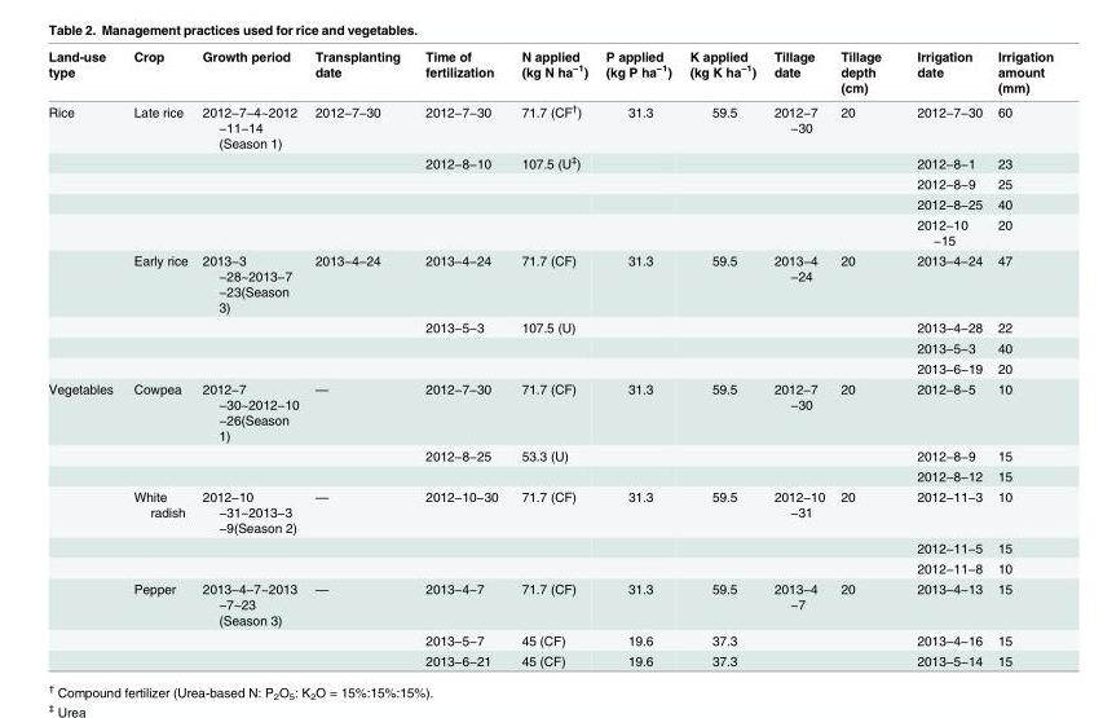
<table><thead><tr><td>Land-use type</td><td>Crop</td><td>Growth period</td><td>Transplanting date</td><td>Time of fertilization</td><td>N applied (kg N ha<sup>−1</sup>)</td><td>P applied (kg P ha<sup>−1</sup>)</td><td>K applied (kg K ha<sup>−1</sup>)</td><td>Tillage date</td><td>Tillage depth (cm)</td><td>Irrigation date</td><td>Irrigation amount (mm)</td></tr></thead><tbody><tr><td rowspan="9">Rice</td><td>Late rice</td><td>2012−7−4~2012 −11−14 (Season 1)</td><td>2012−7−30</td><td>2012−7−30</td><td>71.7 (CF<sup>†</sup>)</td><td>31.3</td><td>59.5</td><td>2012−7 −30</td><td>20</td><td>2012−7−30</td><td>60</td></tr><tr><td></td><td></td><td></td><td>2012−8−10</td><td>107.5 (U<sup>‡</sup>)</td><td></td><td></td><td></td><td></td><td>2012−8−1</td><td>23</td></tr><tr><td></td><td></td><td></td><td></td><td></td><td></td><td></td><td></td><td></td><td>2012−8−9</td><td>25</td></tr><tr><td></td><td></td><td></td><td></td><td></td><td></td><td></td><td></td><td></td><td>2012−8−25</td><td>40</td></tr><tr><td></td><td></td><td></td><td></td><td></td><td></td><td></td><td></td><td></td><td>2012−10 −15</td><td>20</td></tr><tr><td>Early rice</td><td>2013−3 −28~2013−7 −23(Season 3)</td><td>2013−4−24</td><td>2013−4−24</td><td>71.7 (CF)</td><td>31.3</td><td>59.5</td><td>2013−4 −24</td><td>20</td><td>2013−4−24</td><td>47</td></tr><tr><td></td><td></td><td></td><td>2013−5−3</td><td>107.5 (U)</td><td></td><td></td><td></td><td></td><td>2013−4−28</td><td>22</td></tr><tr><td></td><td></td><td></td><td></td><td></td><td></td><td></td><td></td><td></td><td>2013−5−3</td><td>40</td></tr><tr><td></td><td></td><td></td><td></td><td></td><td></td><td></td><td></td><td></td><td>2013−6−19</td><td>20</td></tr><tr><td rowspan="9">Vegetables</td><td>Cowpea</td><td>2012−7 −30~2012−10 −26(Season 1)</td><td>—</td><td>2012−7−30</td><td>71.7 (CF)</td><td>31.3</td><td>59.5</td><td>2012−7 −30</td><td>20</td><td>2012−8−5</td><td>10</td></tr><tr><td></td><td></td><td></td><td>2012−8−25</td><td>53.3 (U)</td><td></td><td></td><td></td><td></td><td>2012−8−9</td><td>15</td></tr><tr><td></td><td></td><td></td><td></td><td></td><td></td><td></td><td></td><td></td><td>2012−8−12</td><td>15</td></tr><tr><td>White radish</td><td>2012−10 −31~2013−3 −9(Season 2)</td><td>—</td><td>2012−10−30</td><td>71.7 (CF)</td><td>31.3</td><td>59.5</td><td>2012−10 −31</td><td>20</td><td>2012−11−3</td><td>10</td></tr><tr><td></td><td></td><td></td><td></td><td></td><td></td><td></td><td></td><td></td><td>2012−11−5</td><td>15</td></tr><tr><td></td><td></td><td></td><td></td><td></td><td></td><td></td><td></td><td></td><td>2012−11−8</td><td>10</td></tr><tr><td>Pepper</td><td>2013−4−7~2013 −7−23 (Season 3)</td><td>—</td><td>2013−4−7</td><td>71.7 (CF)</td><td>31.3</td><td>59.5</td><td>2013−4 −7</td><td>20</td><td>2013−4−13</td><td>15</td></tr><tr><td></td><td></td><td></td><td>2013−5−7</td><td>45 (CF)</td><td>19.6</td><td>37.3</td><td></td><td></td><td>2013−4−16</td><td>15</td></tr><tr><td></td><td></td><td></td><td>2013−6−21</td><td>45 (CF)</td><td>19.6</td><td>37.3</td><td></td><td></td><td>2013−5−14</td><td>15</td></tr></tbody></table>